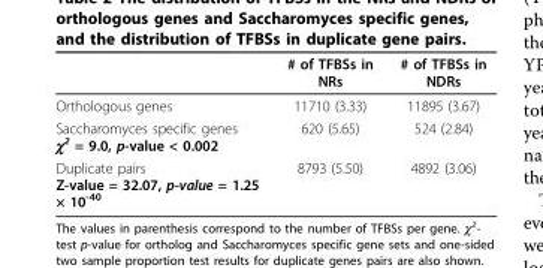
<table><thead><tr><td></td><td># of TFBSs in NRs</td><td># of TFBSs in NDRs</td></tr></thead><tbody><tr><td>Orthologous genes</td><td>11710 (3.33)</td><td>11895 (3.67)</td></tr><tr><td>Saccharomyces specific genes χ<sup>2</sup> = 9.0, p-value &lt; 0.002</td><td>620 (5.65)</td><td>524 (2.84)</td></tr><tr><td>Duplicate pairs Z-value = 32.07, p-value = 1.25 × 10<sup>-40</sup></td><td>8793 (5.50)</td><td>4892 (3.06)</td></tr></tbody></table>